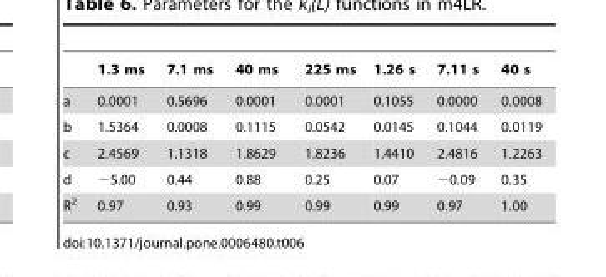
<table><thead><tr><td></td><td>1.3 ms</td><td>7.1 ms</td><td>40 ms</td><td>225 ms</td><td>1.26 s</td><td>7.11 s</td><td>40 s</td></tr></thead><tbody><tr><td>a</td><td>0.0001</td><td>0.5696</td><td>0.0001</td><td>0.0001</td><td>0.1055</td><td>0.0000</td><td>0.0008</td></tr><tr><td>b</td><td>1.5364</td><td>0.0008</td><td>0.1115</td><td>0.0542</td><td>0.0145</td><td>0.1044</td><td>0.0119</td></tr><tr><td>c</td><td>2.4569</td><td>1.1318</td><td>1.8629</td><td>1.8236</td><td>1.4410</td><td>2.4816</td><td>1.2263</td></tr><tr><td>d</td><td>−5.00</td><td>0.44</td><td>0.88</td><td>0.25</td><td>0.07</td><td>−0.09</td><td>0.35</td></tr><tr><td>R<sup>2</sup></td><td>0.97</td><td>0.93</td><td>0.99</td><td>0.99</td><td>0.99</td><td>0.97</td><td>1.00</td></tr></tbody></table>